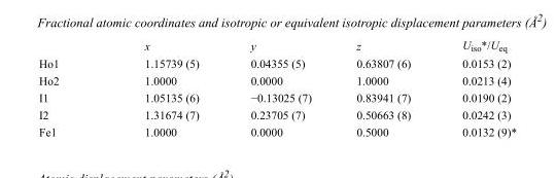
<table><thead><tr><td></td><td>x</td><td>y</td><td>z</td><td>U<sub>iso</sub>*/U<sub>eq</sub></td></tr></thead><tbody><tr><td>Ho1</td><td>1.15739 (5)</td><td>0.04355 (5)</td><td>0.63807 (6)</td><td>0.0153 (2)</td></tr><tr><td>Ho2</td><td>1.0000</td><td>0.0000</td><td>1.0000</td><td>0.0213 (4)</td></tr><tr><td>I1</td><td>1.05135 (6)</td><td>−0.13025 (7)</td><td>0.83941 (7)</td><td>0.0190 (2)</td></tr><tr><td>I2</td><td>1.31674 (7)</td><td>0.23705 (7)</td><td>0.50663 (8)</td><td>0.0242 (3)</td></tr><tr><td>Fe1</td><td>1.0000</td><td>0.0000</td><td>0.5000</td><td>0.0132 (9)*</td></tr></tbody></table>